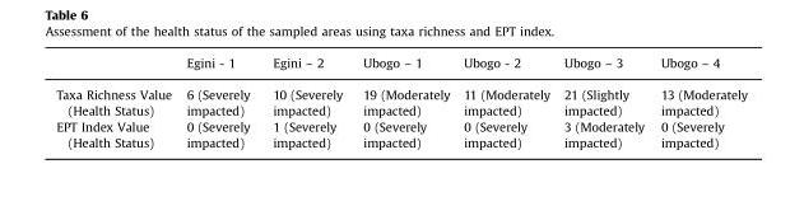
<table><thead><tr><td></td><td>Egini - 1</td><td>Egini – 2</td><td>Ubogo – 1</td><td>Ubogo - 2</td><td>Ubogo – 3</td><td>Ubogo – 4</td></tr></thead><tbody><tr><td>Taxa Richness Value (Health Status)</td><td>6 (Severely impacted)</td><td>10 (Severely impacted)</td><td>19 (Moderately impacted)</td><td>11 (Moderately impacted)</td><td>21 (Slightly impacted)</td><td>13 (Moderately impacted)</td></tr><tr><td>EPT Index Value (Health Status)</td><td>0 (Severely impacted)</td><td>1 (Severely impacted)</td><td>0 (Severely impacted)</td><td>0 (Severely impacted)</td><td>3 (Moderately impacted)</td><td>0 (Severely impacted)</td></tr></tbody></table>